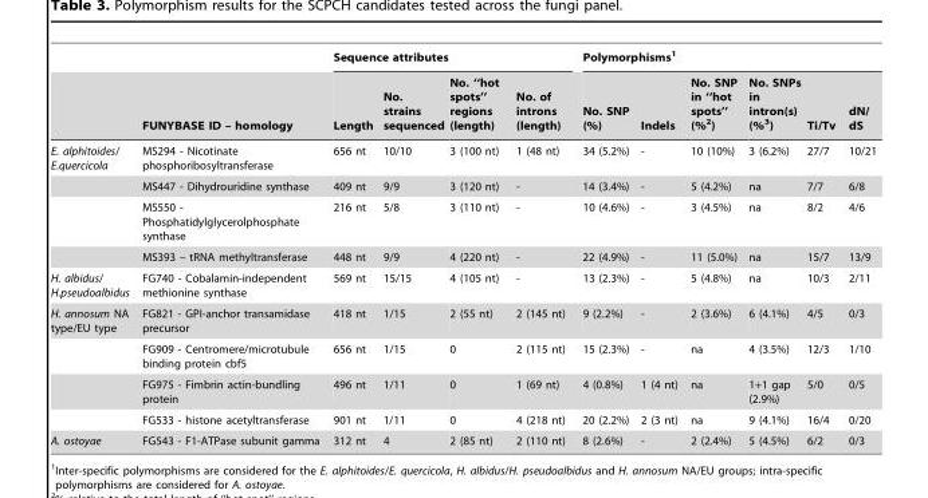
<table><thead><tr><td rowspan="2"></td><td rowspan="2">FUNYBASE ID – homology</td><td colspan="4">Sequence attributes</td><td colspan="6">Polymorphisms<sup>1</sup></td></tr><tr><td>Length</td><td>No. strains sequenced</td><td>No. ‘‘hot spots’’ regions (length)</td><td>No. of introns (length)</td><td>No. SNP (%)</td><td>Indels</td><td>No. SNP in ‘‘hot spots’’ (%2)</td><td>No. SNPs in intron(s) (%<sup>3</sup>)</td><td>Ti/Tv</td><td>dN/ dS</td></tr></thead><tbody><tr><td rowspan="4">E. alphitoides/ E.quercicola</td><td>MS294 - Nicotinate phosphoribosyltransferase</td><td>656 nt</td><td>10/10</td><td>3 (100 nt)</td><td>1 (48 nt)</td><td>34 (5.2%)</td><td>-</td><td>10 (10%)</td><td>3 (6.2%)</td><td>27/7</td><td>10/21</td></tr><tr><td>MS447 - Dihydrouridine synthase</td><td>409 nt</td><td>9/9</td><td>3 (120 nt)</td><td>-</td><td>14 (3.4%)</td><td>-</td><td>5 (4.2%)</td><td>na</td><td>7/7</td><td>6/8</td></tr><tr><td>MS550 - Phosphatidylglycerolphosphate synthase</td><td>216 nt</td><td>5/8</td><td>3 (110 nt)</td><td>-</td><td>10 (4.6%)</td><td>-</td><td>3 (4.5%)</td><td>na</td><td>8/2</td><td>4/6</td></tr><tr><td>MS393 – tRNA methyltransferase</td><td>448 nt</td><td>9/9</td><td>4 (220 nt)</td><td>-</td><td>22 (4.9%)</td><td>-</td><td>11 (5.0%)</td><td>na</td><td>15/7</td><td>13/9</td></tr><tr><td>H. albidus/ H.pseudoalbidus</td><td>FG740 - Cobalamin-independent methionine synthase</td><td>569 nt</td><td>15/15</td><td>4 (105 nt)</td><td>-</td><td>13 (2.3%)</td><td>-</td><td>5 (4.8%)</td><td>na</td><td>10/3</td><td>2/11</td></tr><tr><td rowspan="4">H. annosum NA type/EU type</td><td>FG821 - GPI-anchor transamidase precursor</td><td>418 nt</td><td>1/15</td><td>2 (55 nt)</td><td>2 (145 nt)</td><td>9 (2.2%)</td><td>-</td><td>2 (3.6%)</td><td>6 (4.1%)</td><td>4/5</td><td>0/3</td></tr><tr><td>FG909 - Centromere/microtubule binding protein cbf5</td><td>656 nt</td><td>1/15</td><td>0</td><td>2 (115 nt)</td><td>15 (2.3%)</td><td>-</td><td>na</td><td>4 (3.5%)</td><td>12/3</td><td>1/10</td></tr><tr><td>FG975 - Fimbrin actin-bundling protein</td><td>496 nt</td><td>1/11</td><td>0</td><td>1 (69 nt)</td><td>4 (0.8%)</td><td>1 (4 nt)</td><td>na</td><td>1+1 gap (2.9%)</td><td>5/0</td><td>0/5</td></tr><tr><td>FG533 - histone acetyltransferase</td><td>901 nt</td><td>1/11</td><td>0</td><td>4 (218 nt)</td><td>20 (2.2%)</td><td>2 (3 nt)</td><td>na</td><td>9 (4.1%)</td><td>16/4</td><td>0/20</td></tr><tr><td>A. ostoyae</td><td>FG543 - F1-ATPase subunit gamma</td><td>312 nt</td><td>4</td><td>2 (85 nt)</td><td>2 (110 nt)</td><td>8 (2.6%)</td><td>-</td><td>2 (2.4%)</td><td>5 (4.5%)</td><td>6/2</td><td>0/3</td></tr></tbody></table>